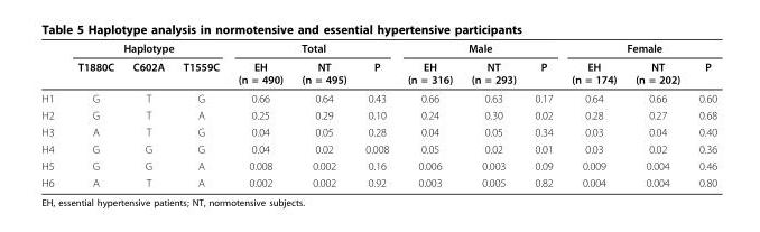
<table><thead><tr><td rowspan="2"></td><td colspan="3">Haplotype</td><td colspan="3">Total</td><td colspan="3">Male</td><td colspan="3">Female</td></tr><tr><td>T1880C</td><td>C602A</td><td>T1559C</td><td>EH (n = 490)</td><td>NT (n = 495)</td><td>P</td><td>EH (n = 316)</td><td>NT (n = 293)</td><td>P</td><td>EH (n = 174)</td><td>NT (n = 202)</td><td>P</td></tr></thead><tbody><tr><td>H1</td><td>G</td><td>T</td><td>G</td><td>0.66</td><td>0.64</td><td>0.43</td><td>0.66</td><td>0.63</td><td>0.17</td><td>0.64</td><td>0.66</td><td>0.60</td></tr><tr><td>H2</td><td>G</td><td>T</td><td>A</td><td>0.25</td><td>0.29</td><td>0.10</td><td>0.24</td><td>0.30</td><td>0.02</td><td>0.28</td><td>0.27</td><td>0.68</td></tr><tr><td>H3</td><td>A</td><td>T</td><td>G</td><td>0.04</td><td>0.05</td><td>0.28</td><td>0.04</td><td>0.05</td><td>0.34</td><td>0.03</td><td>0.04</td><td>0.40</td></tr><tr><td>H4</td><td>G</td><td>G</td><td>G</td><td>0.04</td><td>0.02</td><td>0.008</td><td>0.05</td><td>0.02</td><td>0.01</td><td>0.03</td><td>0.02</td><td>0.36</td></tr><tr><td>H5</td><td>G</td><td>G</td><td>A</td><td>0.008</td><td>0.002</td><td>0.16</td><td>0.006</td><td>0.003</td><td>0.09</td><td>0.009</td><td>0.004</td><td>0.46</td></tr><tr><td>H6</td><td>A</td><td>T</td><td>A</td><td>0.002</td><td>0.002</td><td>0.92</td><td>0.003</td><td>0.005</td><td>0.82</td><td>0.004</td><td>0.004</td><td>0.80</td></tr></tbody></table>